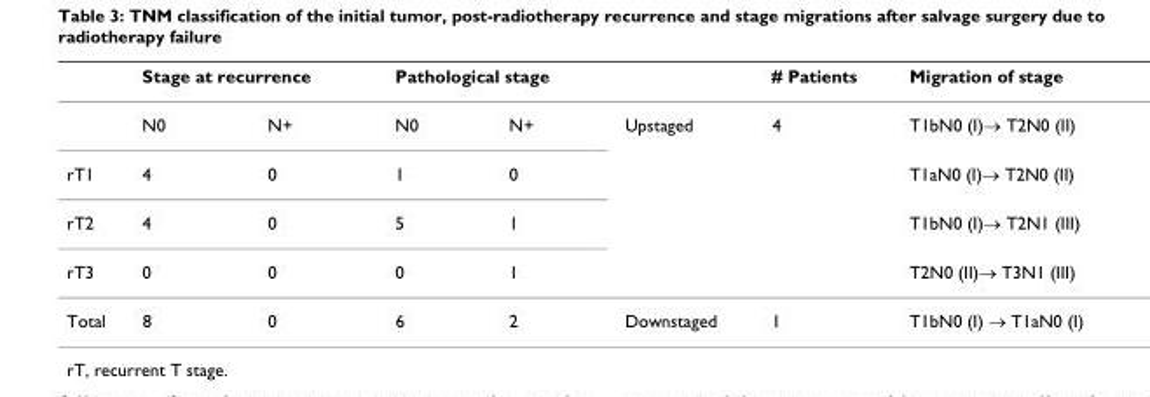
<table><thead><tr><td rowspan="2"></td><td colspan="2">Stage at recurrence</td><td colspan="2">Pathological stage</td><td rowspan="2">Upstaged</td><td rowspan="2"># Patients 4</td><td rowspan="2">Migration of stage T1bN0 (I)→ T2N0 (II)</td></tr><tr><td>N0</td><td>N+</td><td>N0</td><td>N+</td></tr></thead><tbody><tr><td>rT1</td><td>4</td><td>0</td><td>1</td><td>0</td><td></td><td></td><td>T1aN0 (I)→ T2N0 (II)</td></tr><tr><td>rT2</td><td>4</td><td>0</td><td>5</td><td>1</td><td></td><td></td><td>T1bN0 (I)→ T2N1 (III)</td></tr><tr><td>rT3</td><td>0</td><td>0</td><td>0</td><td>1</td><td></td><td></td><td>T2N0 (II)→ T3N1 (III)</td></tr><tr><td>Total</td><td>8</td><td>0</td><td>6</td><td>2</td><td>Downstaged</td><td>1</td><td>T1bN0 (I) → T1aN0 (I)</td></tr></tbody></table>